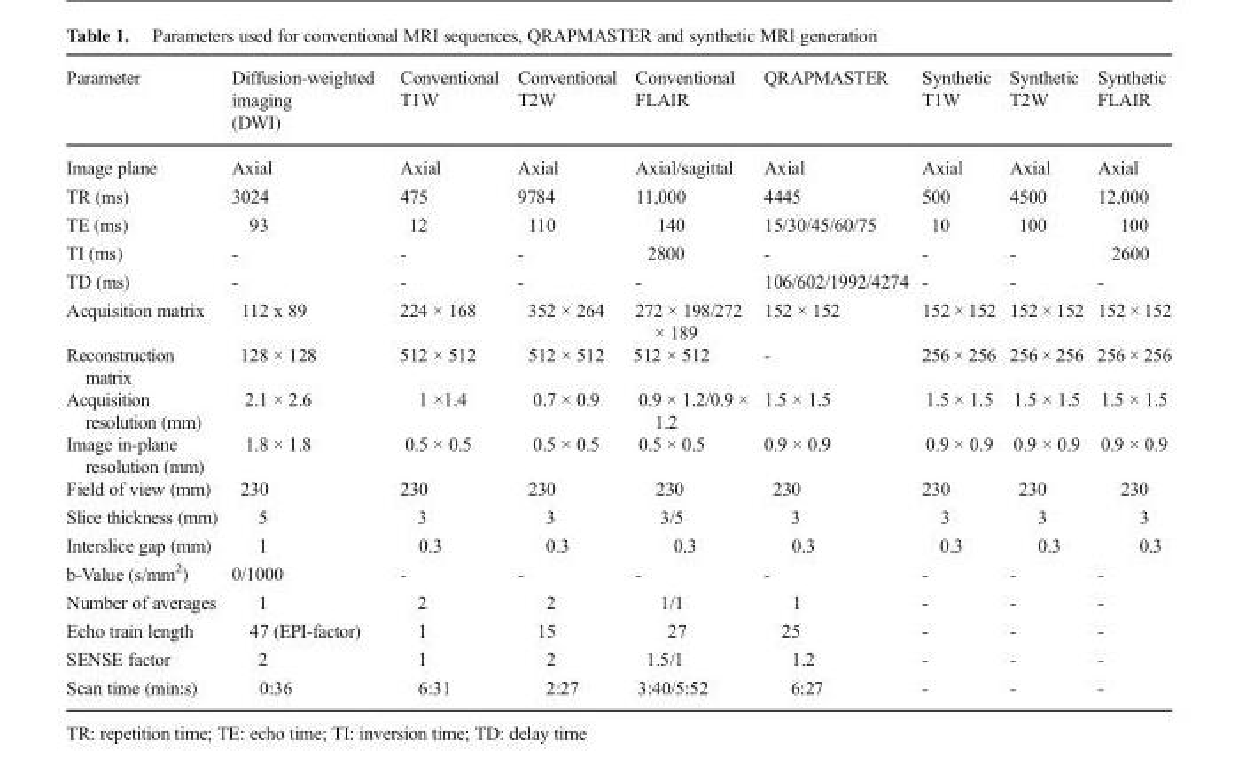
<table><thead><tr><td>Parameter</td><td>Diffusion-weighted imaging (DWI)</td><td>Conventional T1W</td><td>Conventional T2W</td><td>Conventional FLAIR</td><td>QRAPMASTER</td><td>Synthetic T1W</td><td>Synthetic T2W</td><td>Synthetic FLAIR</td></tr></thead><tbody><tr><td>Image plane</td><td>Axial</td><td>Axial</td><td>Axial</td><td>Axial/sagittal</td><td>Axial</td><td>Axial</td><td>Axial</td><td>Axial</td></tr><tr><td>TR (ms)</td><td>3024</td><td>475</td><td>9784</td><td>11,000</td><td>4445</td><td>500</td><td>4500</td><td>12,000</td></tr><tr><td>TE (ms)</td><td>93</td><td>12</td><td>110</td><td>140</td><td>15/30/45/60/75</td><td>10</td><td>100</td><td>100</td></tr><tr><td>TI (ms)</td><td>-</td><td>-</td><td>-</td><td>2800</td><td>-</td><td>-</td><td>-</td><td>2600</td></tr><tr><td>TD (ms)</td><td>-</td><td>-</td><td>-</td><td>-</td><td>106/602/1992/4274</td><td>-</td><td>-</td><td>-</td></tr><tr><td>Acquisition matrix</td><td>112 x 89</td><td>224 × 168</td><td>352 × 264</td><td>272 × 198/272 × 189</td><td>152 × 152</td><td>152 × 152</td><td>152 × 152</td><td>152 × 152</td></tr><tr><td>Reconstruction matrix</td><td>128 × 128</td><td>512 × 512</td><td>512 × 512</td><td>512 × 512</td><td>-</td><td>256 × 256</td><td>256 × 256</td><td>256 × 256</td></tr><tr><td>Acquisition resolution (mm)</td><td>2.1 × 2.6</td><td>1 ×1.4</td><td>0.7 × 0.9</td><td>0.9 × 1.2/0.9 × 1.2</td><td>1.5 × 1.5</td><td>1.5 × 1.5</td><td>1.5 × 1.5</td><td>1.5 × 1.5</td></tr><tr><td>Image in-plane resolution (mm)</td><td>1.8 × 1.8</td><td>0.5 × 0.5</td><td>0.5 × 0.5</td><td>0.5 × 0.5</td><td>0.9 × 0.9</td><td>0.9 × 0.9</td><td>0.9 × 0.9</td><td>0.9 × 0.9</td></tr><tr><td>Field of view (mm)</td><td>230</td><td>230</td><td>230</td><td>230</td><td>230</td><td>230</td><td>230</td><td>230</td></tr><tr><td>Slice thickness (mm)</td><td>5</td><td>3</td><td>3</td><td>3/5</td><td>3</td><td>3</td><td>3</td><td>3</td></tr><tr><td>Interslice gap (mm)</td><td>1</td><td>0.3</td><td>0.3</td><td>0.3</td><td>0.3</td><td>0.3</td><td>0.3</td><td>0.3</td></tr><tr><td>b-Value (s/mm<sup>2</sup>)</td><td>0/1000</td><td>-</td><td>-</td><td>-</td><td>-</td><td>-</td><td>-</td><td>-</td></tr><tr><td>Number of averages</td><td>1</td><td>2</td><td>2</td><td>1/1</td><td>1</td><td>-</td><td>-</td><td>-</td></tr><tr><td>Echo train length</td><td>47 (EPI-factor)</td><td>1</td><td>15</td><td>27</td><td>25</td><td>-</td><td>-</td><td>-</td></tr><tr><td>SENSE factor</td><td>2</td><td>1</td><td>2</td><td>1.5/1</td><td>1.2</td><td>-</td><td>-</td><td>-</td></tr><tr><td>Scan time (min:s)</td><td>0:36</td><td>6:31</td><td>2:27</td><td>3:40/5:52</td><td>6:27</td><td>-</td><td>-</td><td>-</td></tr></tbody></table>